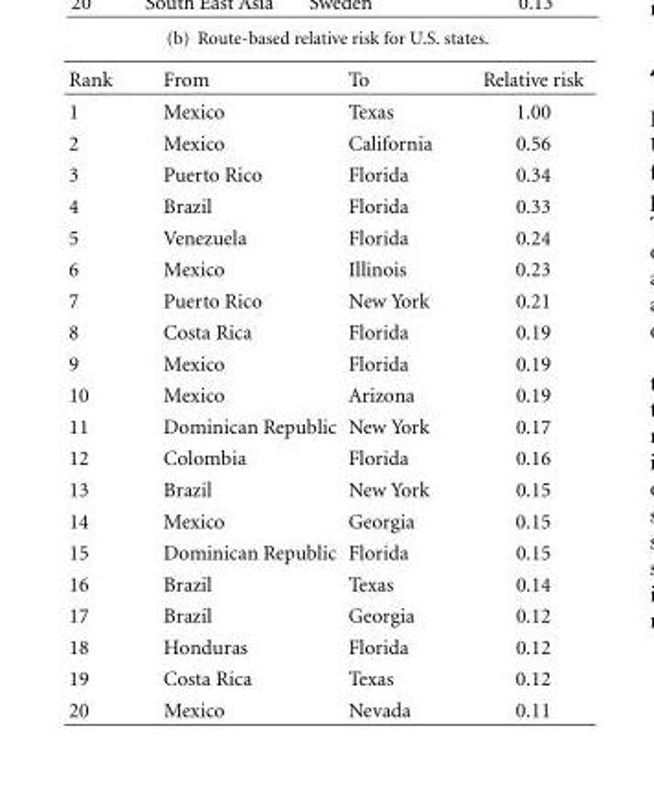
<table><thead><tr><td>Rank</td><td>From</td><td>To</td><td>Relative risk</td></tr></thead><tbody><tr><td>1</td><td>Mexico</td><td>Texas</td><td>1.00</td></tr><tr><td>2</td><td>Mexico</td><td>California</td><td>0.56</td></tr><tr><td>3</td><td>Puerto Rico</td><td>Florida</td><td>0.34</td></tr><tr><td>4</td><td>Brazil</td><td>Florida</td><td>0.33</td></tr><tr><td>5</td><td>Venezuela</td><td>Florida</td><td>0.24</td></tr><tr><td>6</td><td>Mexico</td><td>Illinois</td><td>0.23</td></tr><tr><td>7</td><td>Puerto Rico</td><td>New York</td><td>0.21</td></tr><tr><td>8</td><td>Costa Rica</td><td>Florida</td><td>0.19</td></tr><tr><td>9</td><td>Mexico</td><td>Florida</td><td>0.19</td></tr><tr><td>10</td><td>Mexico</td><td>Arizona</td><td>0.19</td></tr><tr><td>11</td><td>Dominican Republic</td><td>New York</td><td>0.17</td></tr><tr><td>12</td><td>Colombia</td><td>Florida</td><td>0.16</td></tr><tr><td>13</td><td>Brazil</td><td>New York</td><td>0.15</td></tr><tr><td>14</td><td>Mexico</td><td>Georgia</td><td>0.15</td></tr><tr><td>15</td><td>Dominican Republic</td><td>Florida</td><td>0.15</td></tr><tr><td>16</td><td>Brazil</td><td>Texas</td><td>0.14</td></tr><tr><td>17</td><td>Brazil</td><td>Georgia</td><td>0.12</td></tr><tr><td>18</td><td>Honduras</td><td>Florida</td><td>0.12</td></tr><tr><td>19</td><td>Costa Rica</td><td>Texas</td><td>0.12</td></tr><tr><td>20</td><td>Mexico</td><td>Nevada</td><td>0.11</td></tr></tbody></table>